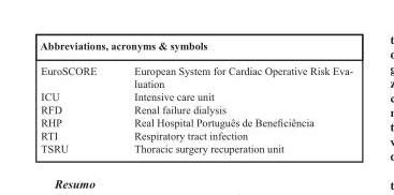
<table><thead><tr><td colspan="2">Abbreviations, acronyms &amp; symbols</td></tr><tr><td>EuroSCORE</td><td>European System for Cardiac Operative Risk Eva- luation</td></tr></thead><tbody><tr><td>ICU</td><td>Intensive care unit</td></tr><tr><td>RFD</td><td>Renal failure dialysis</td></tr><tr><td>RHP</td><td>Real Hospital Português de Beneficiência</td></tr><tr><td>RTI</td><td>Respiratory tract infection</td></tr><tr><td>TSRU</td><td>Thoracic surgery recuperation unit</td></tr></tbody></table>